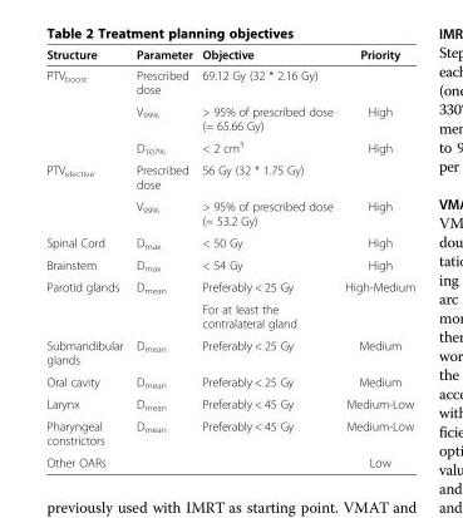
<table><thead><tr><td>Structure</td><td>Parameter</td><td>Objective</td><td>Priority</td></tr></thead><tbody><tr><td rowspan="3">PTV<sub>boost</sub></td><td>Prescribed dose</td><td>69.12 Gy (32 * 2.16 Gy)</td><td></td></tr><tr><td>V<sub>99%</sub></td><td>&gt; 95% of prescribed dose (= 65.66 Gy)</td><td>High</td></tr><tr><td>D<sub>107%</sub></td><td>&lt; 2 cm<sup>3</sup></td><td>High</td></tr><tr><td rowspan="2">PTV<sub>elective</sub></td><td>Prescribed dose</td><td>56 Gy (32 * 1.75 Gy)</td><td></td></tr><tr><td>V<sub>99%</sub></td><td>&gt; 95% of prescribed dose (= 53.2 Gy)</td><td>High</td></tr><tr><td>Spinal Cord</td><td>D<sub>max</sub></td><td>&lt; 50 Gy</td><td>High</td></tr><tr><td>Brainstem</td><td>D<sub>max</sub></td><td>&lt; 54 Gy</td><td>High</td></tr><tr><td rowspan="2">Parotid glands</td><td>D<sub>mean</sub></td><td>Preferably &lt; 25 Gy</td><td rowspan="2">High-Medium</td></tr><tr><td></td><td>For at least the contralateral gland</td></tr><tr><td>Submandibular glands</td><td>D<sub>mean</sub></td><td>Preferably &lt; 25 Gy</td><td>Medium</td></tr><tr><td>Oral cavity</td><td>D<sub>mean</sub></td><td>Preferably &lt; 25 Gy</td><td>Medium</td></tr><tr><td>Larynx</td><td>D<sub>mean</sub></td><td>Preferably &lt; 45 Gy</td><td>Medium-Low</td></tr><tr><td>Pharyngeal constrictors</td><td>D<sub>mean</sub></td><td>Preferably &lt; 45 Gy</td><td>Medium-Low</td></tr><tr><td>Other OARs</td><td></td><td></td><td>Low</td></tr></tbody></table>